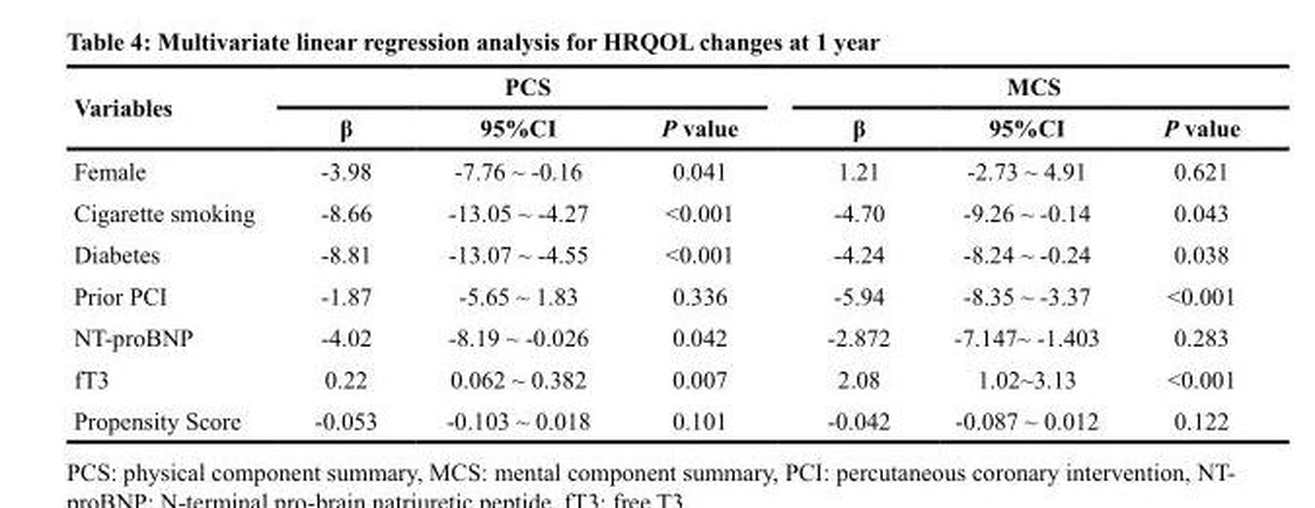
<table><thead><tr><td rowspan="2">Variables</td><td colspan="3">PCS</td><td colspan="3">MCS</td></tr><tr><td>β</td><td>95%CI</td><td>P value</td><td>β</td><td>95%CI</td><td>P value</td></tr></thead><tbody><tr><td>Female</td><td>-3.98</td><td>-7.76 ~ -0.16</td><td>0.041</td><td>1.21</td><td>-2.73 ~ 4.91</td><td>0.621</td></tr><tr><td>Cigarette smoking</td><td>-8.66</td><td>-13.05 ~ -4.27</td><td>&lt;0.001</td><td>-4.70</td><td>-9.26 ~ -0.14</td><td>0.043</td></tr><tr><td>Diabetes</td><td>-8.81</td><td>-13.07 ~ -4.55</td><td>&lt;0.001</td><td>-4.24</td><td>-8.24 ~ -0.24</td><td>0.038</td></tr><tr><td>Prior PCI</td><td>-1.87</td><td>-5.65 ~ 1.83</td><td>0.336</td><td>-5.94</td><td>-8.35 ~ -3.37</td><td>&lt;0.001</td></tr><tr><td>NT-proBNP</td><td>-4.02</td><td>-8.19 ~ -0.026</td><td>0.042</td><td>-2.872</td><td>-7.147~ -1.403</td><td>0.283</td></tr><tr><td>fT3</td><td>0.22</td><td>0.062 ~ 0.382</td><td>0.007</td><td>2.08</td><td>1.02~3.13</td><td>&lt;0.001</td></tr><tr><td>Propensity Score</td><td>-0.053</td><td>-0.103 ~ 0.018</td><td>0.101</td><td>-0.042</td><td>-0.087 ~ 0.012</td><td>0.122</td></tr></tbody></table>